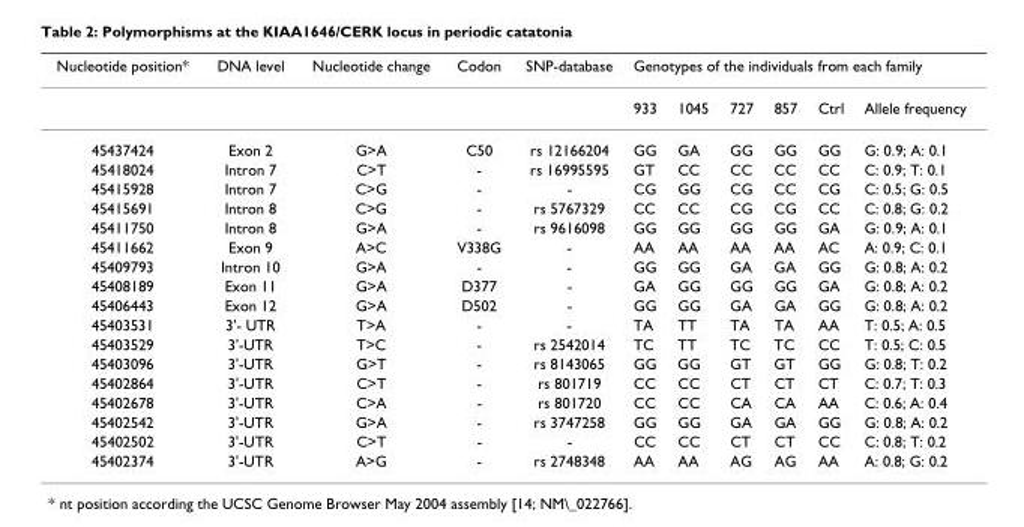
<table><thead><tr><td rowspan="2">Nucleotide position*</td><td rowspan="2">DNA level</td><td rowspan="2">Nucleotide change</td><td rowspan="2">Codon</td><td rowspan="2">SNP-database</td><td colspan="6">Genotypes of the individuals from each family</td></tr><tr><td>933</td><td>1045</td><td>727</td><td>857</td><td>Ctrl</td><td>Allele frequency</td></tr></thead><tbody><tr><td>45437424</td><td>Exon 2</td><td>G&gt;A</td><td>C50</td><td>rs 12166204</td><td>GG</td><td>GA</td><td>GG</td><td>GG</td><td>GG</td><td>G: 0.9; A: 0.1</td></tr><tr><td>45418024</td><td>Intron 7</td><td>C&gt;T</td><td>-</td><td>rs 16995595</td><td>GT</td><td>CC</td><td>CC</td><td>CC</td><td>CC</td><td>C: 0.9; T: 0.1</td></tr><tr><td>45415928</td><td>Intron 7</td><td>C&gt;G</td><td>-</td><td>-</td><td>CG</td><td>GG</td><td>CG</td><td>CC</td><td>CG</td><td>C: 0.5; G: 0.5</td></tr><tr><td>45415691</td><td>Intron 8</td><td>C&gt;G</td><td>-</td><td>rs 5767329</td><td>CC</td><td>CC</td><td>CG</td><td>CG</td><td>CC</td><td>C: 0.8; G: 0.2</td></tr><tr><td>45411750</td><td>Intron 8</td><td>G&gt;A</td><td>-</td><td>rs 9616098</td><td>GG</td><td>GG</td><td>GG</td><td>GG</td><td>GA</td><td>G: 0.9; A: 0.1</td></tr><tr><td>45411662</td><td>Exon 9</td><td>A&gt;C</td><td>V338G</td><td>-</td><td>AA</td><td>AA</td><td>AA</td><td>AA</td><td>AC</td><td>A: 0.9; C: 0.1</td></tr><tr><td>45409793</td><td>Intron 10</td><td>G&gt;A</td><td>-</td><td>-</td><td>GG</td><td>GG</td><td>GA</td><td>GA</td><td>GG</td><td>G: 0.8; A: 0.2</td></tr><tr><td>45408189</td><td>Exon 11</td><td>G&gt;A</td><td>D377</td><td>-</td><td>GA</td><td>GG</td><td>GG</td><td>GG</td><td>GA</td><td>G: 0.8; A: 0.2</td></tr><tr><td>45406443</td><td>Exon 12</td><td>G&gt;A</td><td>D502</td><td>-</td><td>GG</td><td>GG</td><td>GA</td><td>GA</td><td>GG</td><td>G: 0.8; A: 0.2</td></tr><tr><td>45403531</td><td>3&#x27;- UTR</td><td>T&gt;A</td><td>-</td><td>-</td><td>TA</td><td>TT</td><td>TA</td><td>TA</td><td>AA</td><td>T: 0.5; A: 0.5</td></tr><tr><td>45403529</td><td>3&#x27;-UTR</td><td>T&gt;C</td><td>-</td><td>rs 2542014</td><td>TC</td><td>TT</td><td>TC</td><td>TC</td><td>CC</td><td>T: 0.5; C: 0.5</td></tr><tr><td>45403096</td><td>3&#x27;-UTR</td><td>G&gt;T</td><td>-</td><td>rs 8143065</td><td>GG</td><td>GG</td><td>GT</td><td>GT</td><td>GG</td><td>G: 0.8; T: 0.2</td></tr><tr><td>45402864</td><td>3&#x27;-UTR</td><td>C&gt;T</td><td>-</td><td>rs 801719</td><td>CC</td><td>CC</td><td>CT</td><td>CT</td><td>CT</td><td>C: 0.7; T: 0.3</td></tr><tr><td>45402678</td><td>3&#x27;-UTR</td><td>C&gt;A</td><td>-</td><td>rs 801720</td><td>CC</td><td>CC</td><td>CA</td><td>CA</td><td>AA</td><td>C: 0.6; A: 0.4</td></tr><tr><td>45402542</td><td>3&#x27;-UTR</td><td>G&gt;A</td><td>-</td><td>rs 3747258</td><td>GG</td><td>GG</td><td>GA</td><td>GA</td><td>GG</td><td>G: 0.8; A: 0.2</td></tr><tr><td>45402502</td><td>3&#x27;-UTR</td><td>C&gt;T</td><td>-</td><td>-</td><td>CC</td><td>CC</td><td>CT</td><td>CT</td><td>CC</td><td>C: 0.8; T: 0.2</td></tr><tr><td>45402374</td><td>3&#x27;-UTR</td><td>A&gt;G</td><td>-</td><td>rs 2748348</td><td>AA</td><td>AA</td><td>AG</td><td>AG</td><td>AA</td><td>A: 0.8; G: 0.2</td></tr></tbody></table>